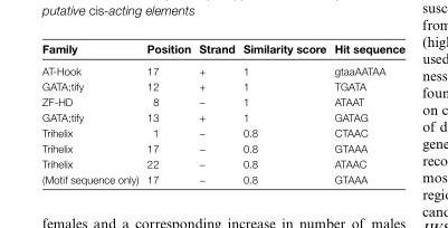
<table><thead><tr><td>Family</td><td>Position</td><td>Strand</td><td>Similarity score</td><td>Hit sequence</td></tr></thead><tbody><tr><td>AT-Hook</td><td>17</td><td>+</td><td>1</td><td>gtaaAATAA</td></tr><tr><td>GATA;tify</td><td>12</td><td>+</td><td>1</td><td>TGATA</td></tr><tr><td>ZF-HD</td><td>8</td><td>−</td><td>1</td><td>ATAAT</td></tr><tr><td>GATA;tify</td><td>13</td><td>+</td><td>1</td><td>GATAG</td></tr><tr><td>Trihelix</td><td>1</td><td>−</td><td>0.8</td><td>CTAAC</td></tr><tr><td>Trihelix</td><td>17</td><td>−</td><td>0.8</td><td>GTAAA</td></tr><tr><td>Trihelix</td><td>22</td><td>−</td><td>0.8</td><td>ATAAC</td></tr><tr><td>(Motif sequence only)</td><td>17</td><td>−</td><td>0.8</td><td>GTAAA</td></tr></tbody></table>